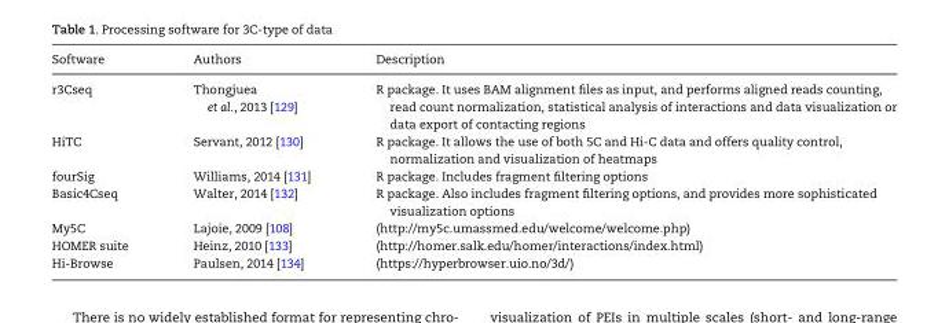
<table><thead><tr><td>Software</td><td>Authors</td><td>Description</td></tr></thead><tbody><tr><td>r3Cseq</td><td>Thongjuea et al., 2013 [129]</td><td>R package. It uses BAM alignment files as input, and performs aligned reads counting, read count normalization, statistical analysis of interactions and data visualization or data export of contacting regions</td></tr><tr><td>HiTC</td><td>Servant, 2012 [130]</td><td>R package. It allows the use of both 5C and Hi-C data and offers quality control, normalization and visualization of heatmaps</td></tr><tr><td>fourSig</td><td>Williams, 2014 [131]</td><td>R package. Includes fragment filtering options</td></tr><tr><td>Basic4Cseq</td><td>Walter, 2014 [132]</td><td>R package. Also includes fragment filtering options, and provides more sophisticated visualization options</td></tr><tr><td>My5C</td><td>Lajoie, 2009 [108]</td><td>(http://my5c.umassmed.edu/welcome/welcome.php)</td></tr><tr><td>HOMER suite</td><td>Heinz, 2010 [133]</td><td>(http://homer.salk.edu/homer/interactions/index.html)</td></tr><tr><td>Hi-Browse</td><td>Paulsen, 2014 [134]</td><td>(https://hyperbrowser.uio.no/3d/)</td></tr></tbody></table>